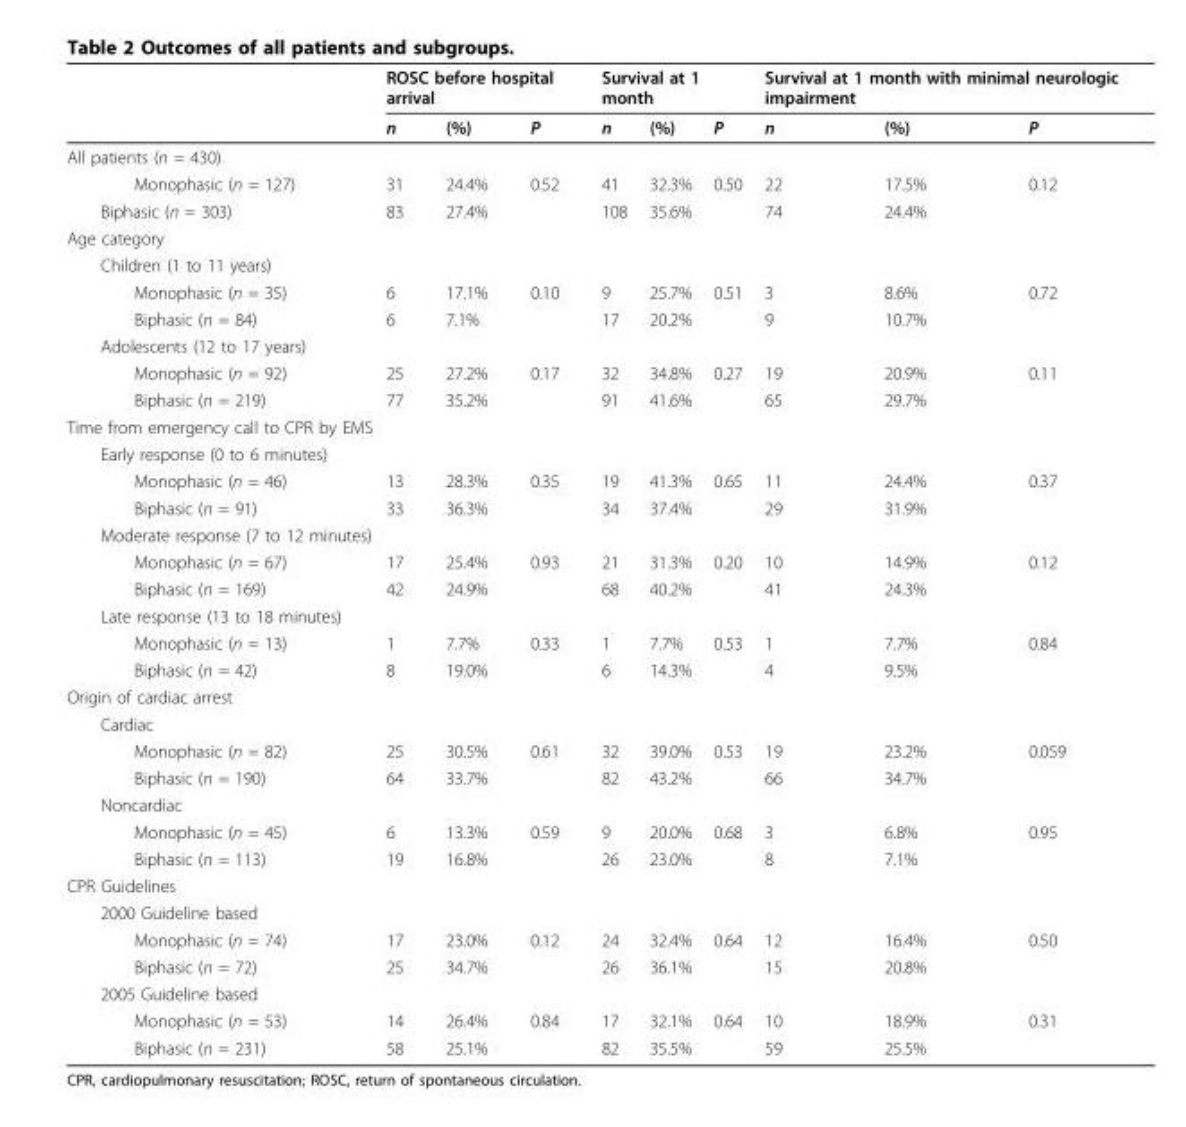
<table><thead><tr><td rowspan="2"></td><td colspan="3">ROSC before hospital arrival</td><td colspan="3">Survival at 1 month</td><td colspan="3">Survival at 1 month with minimal neurologic impairment</td></tr><tr><td>n</td><td>(%)</td><td>P</td><td>n</td><td>(%)</td><td>P</td><td>n</td><td>(%)</td><td>P</td></tr></thead><tbody><tr><td colspan="10">All patients (n = 430)</td></tr><tr><td>Monophasic (n = 127)</td><td>31</td><td>24.4%</td><td>0.52</td><td>41</td><td>32.3%</td><td>0.50</td><td>22</td><td>17.5%</td><td>0.12</td></tr><tr><td>Biphasic (n = 303)</td><td>83</td><td>27.4%</td><td></td><td>108</td><td>35.6%</td><td></td><td>74</td><td>24.4%</td><td></td></tr><tr><td colspan="10">Age category</td></tr><tr><td colspan="10">Children (1 to 11 years)</td></tr><tr><td>Monophasic (n = 35)</td><td>6</td><td>17.1%</td><td>0.10</td><td>9</td><td>25.7%</td><td>0.51</td><td>3</td><td>8.6%</td><td>0.72</td></tr><tr><td>Biphasic (n = 84)</td><td>6</td><td>7.1%</td><td></td><td>17</td><td>20.2%</td><td></td><td>9</td><td>10.7%</td><td></td></tr><tr><td colspan="10">Adolescents (12 to 17 years)</td></tr><tr><td>Monophasic (n = 92)</td><td>25</td><td>27.2%</td><td>0.17</td><td>32</td><td>34.8%</td><td>0.27</td><td>19</td><td>20.9%</td><td>0.11</td></tr><tr><td>Biphasic (n = 219)</td><td>77</td><td>35.2%</td><td></td><td>91</td><td>41.6%</td><td></td><td>65</td><td>29.7%</td><td></td></tr><tr><td colspan="10">Time from emergency call to CPR by EMS</td></tr><tr><td colspan="10">Early response (0 to 6 minutes)</td></tr><tr><td>Monophasic (n = 46)</td><td>13</td><td>28.3%</td><td>0.35</td><td>19</td><td>41.3%</td><td>0.65</td><td>11</td><td>24.4%</td><td>0.37</td></tr><tr><td>Biphasic (n = 91)</td><td>33</td><td>36.3%</td><td></td><td>34</td><td>37.4%</td><td></td><td>29</td><td>31.9%</td><td></td></tr><tr><td colspan="10">Moderate response (7 to 12 minutes)</td></tr><tr><td>Monophasic (n = 67)</td><td>17</td><td>25.4%</td><td>0.93</td><td>21</td><td>31.3%</td><td>0.20</td><td>10</td><td>14.9%</td><td>0.12</td></tr><tr><td>Biphasic (n = 169)</td><td>42</td><td>24.9%</td><td></td><td>68</td><td>40.2%</td><td></td><td>41</td><td>24.3%</td><td></td></tr><tr><td colspan="10">Late response (13 to 18 minutes)</td></tr><tr><td>Monophasic (n = 13)</td><td>1</td><td>7.7%</td><td>0.33</td><td>1</td><td>7.7%</td><td>0.53</td><td>1</td><td>7.7%</td><td>0.84</td></tr><tr><td>Biphasic (n = 42)</td><td>8</td><td>19.0%</td><td></td><td>6</td><td>14.3%</td><td></td><td>4</td><td>9.5%</td><td></td></tr><tr><td colspan="10">Origin of cardiac arrest</td></tr><tr><td colspan="10">Cardiac</td></tr><tr><td>Monophasic (n = 82)</td><td>25</td><td>30.5%</td><td>0.61</td><td>32</td><td>39.0%</td><td>0.53</td><td>19</td><td>23.2%</td><td>0.059</td></tr><tr><td>Biphasic (n = 190)</td><td>64</td><td>33.7%</td><td></td><td>82</td><td>43.2%</td><td></td><td>66</td><td>34.7%</td><td></td></tr><tr><td colspan="10">Noncardiac</td></tr><tr><td>Monophasic (n = 45)</td><td>6</td><td>13.3%</td><td>0.59</td><td>9</td><td>20.0%</td><td>0.68</td><td>3</td><td>6.8%</td><td>0.95</td></tr><tr><td>Biphasic (n = 113)</td><td>19</td><td>16.8%</td><td></td><td>26</td><td>23.0%</td><td></td><td>8</td><td>7.1%</td><td></td></tr><tr><td colspan="10">CPR Guidelines</td></tr><tr><td colspan="10">2000 Guideline based</td></tr><tr><td>Monophasic (n = 74)</td><td>17</td><td>23.0%</td><td>0.12</td><td>24</td><td>32.4%</td><td>0.64</td><td>12</td><td>16.4%</td><td>0.50</td></tr><tr><td>Biphasic (n = 72)</td><td>25</td><td>34.7%</td><td></td><td>26</td><td>36.1%</td><td></td><td>15</td><td>20.8%</td><td></td></tr><tr><td colspan="10">2005 Guideline based</td></tr><tr><td>Monophasic (n = 53)</td><td>14</td><td>26.4%</td><td>0.84</td><td>17</td><td>32.1%</td><td>0.64</td><td>10</td><td>18.9%</td><td>0.31</td></tr><tr><td>Biphasic (n = 231)</td><td>58</td><td>25.1%</td><td></td><td>82</td><td>35.5%</td><td></td><td>59</td><td>25.5%</td><td></td></tr></tbody></table>